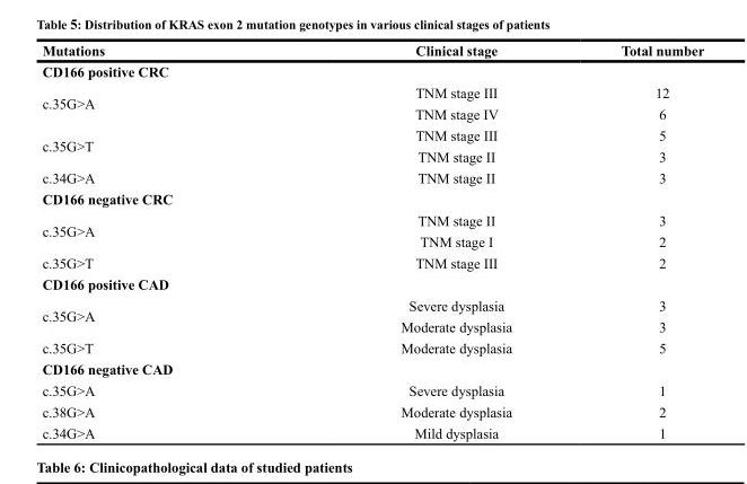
<table><thead><tr><td>Mutations</td><td>Clinical stage</td><td>Total number</td></tr></thead><tbody><tr><td colspan="3">CD166 positive CRC</td></tr><tr><td rowspan="2">c.35G&gt;A</td><td>TNM stage III</td><td>12</td></tr><tr><td>TNM stage IV</td><td>6</td></tr><tr><td rowspan="2">c.35G&gt;T</td><td>TNM stage III</td><td>5</td></tr><tr><td>TNM stage II</td><td>3</td></tr><tr><td>c.34G&gt;A</td><td>TNM stage II</td><td>3</td></tr><tr><td colspan="3">CD166 negative CRC</td></tr><tr><td rowspan="2">c.35G&gt;A</td><td>TNM stage II</td><td>3</td></tr><tr><td>TNM stage I</td><td>2</td></tr><tr><td>c.35G&gt;T</td><td>TNM stage III</td><td>2</td></tr><tr><td colspan="3">CD166 positive CAD</td></tr><tr><td rowspan="2">c.35G&gt;A</td><td>Severe dysplasia</td><td>3</td></tr><tr><td>Moderate dysplasia</td><td>3</td></tr><tr><td>c.35G&gt;T</td><td>Moderate dysplasia</td><td>5</td></tr><tr><td colspan="3">CD166 negative CAD</td></tr><tr><td>c.35G&gt;A</td><td>Severe dysplasia</td><td>1</td></tr><tr><td>c.38G&gt;A</td><td>Moderate dysplasia</td><td>2</td></tr><tr><td>c.34G&gt;A</td><td>Mild dysplasia</td><td>1</td></tr></tbody></table>